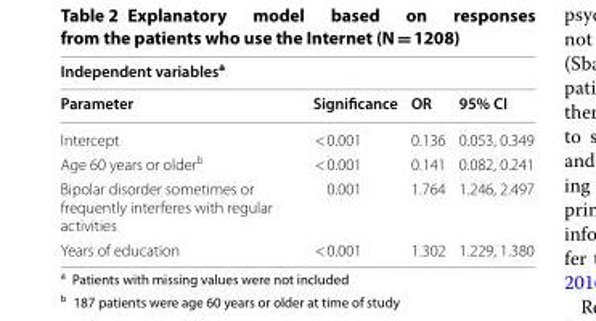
<table><thead><tr><td colspan="4">Independent variables<sup>a</sup></td></tr><tr><td>Parameter</td><td>Significance</td><td>OR</td><td>95% CI</td></tr></thead><tbody><tr><td>Intercept</td><td>&lt; 0.001</td><td>0.136</td><td>0.053, 0.349</td></tr><tr><td>Age 60 years or older<sup>b</sup></td><td>&lt; 0.001</td><td>0.141</td><td>0.082, 0.241</td></tr><tr><td>Bipolar disorder sometimes or frequently interferes with regular activities</td><td>0.001</td><td>1.764</td><td>1.246, 2.497</td></tr><tr><td>Years of education</td><td>&lt; 0.001</td><td>1.302</td><td>1.229, 1.380</td></tr></tbody></table>